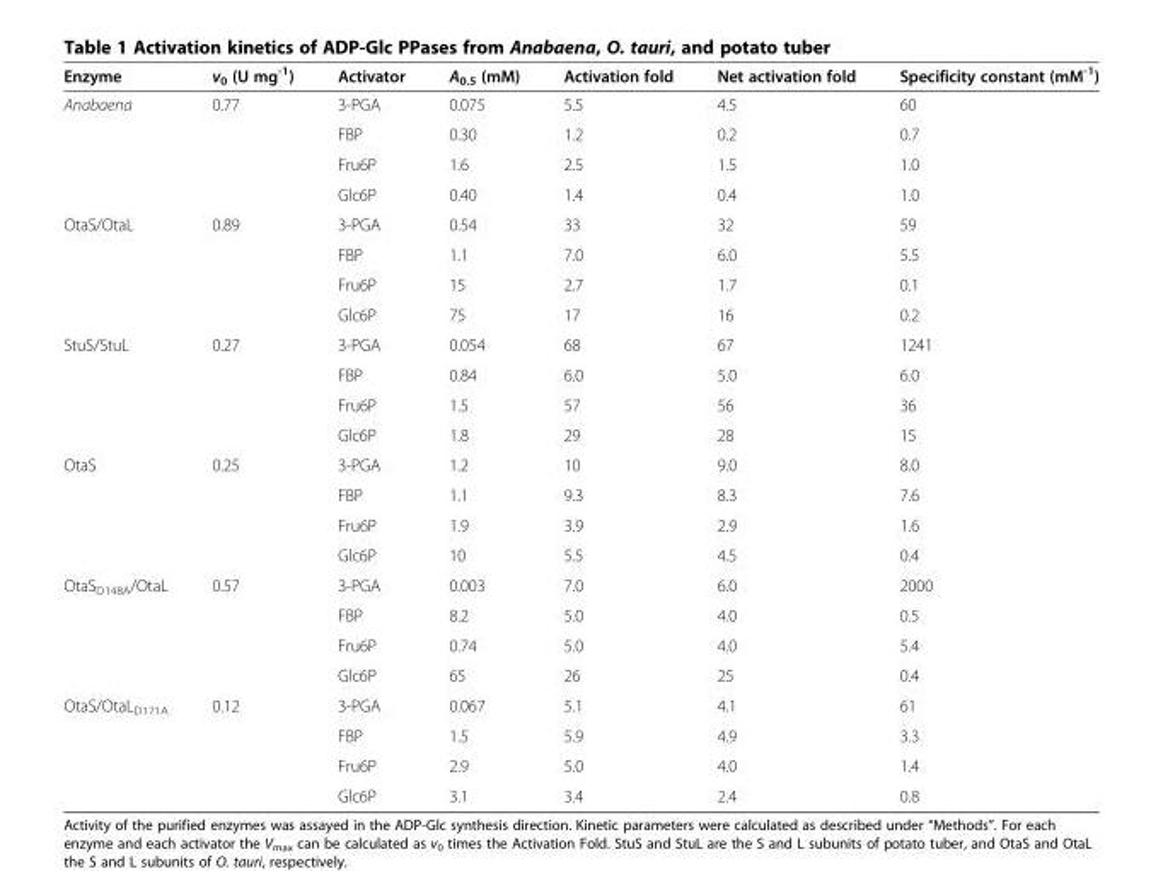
<table><thead><tr><td>Enzyme</td><td>v<sub>0</sub> (U mg<sup>-1</sup>)</td><td>Activator</td><td>A<sub>0.5</sub> (mM)</td><td>Activation fold</td><td>Net activation fold</td><td>Specificity constant (mM<sup>-1</sup>)</td></tr></thead><tbody><tr><td rowspan="4">Anabaena</td><td>0.77</td><td>3-PGA</td><td>0.075</td><td>5.5</td><td>4.5</td><td>60</td></tr><tr><td></td><td>FBP</td><td>0.30</td><td>1.2</td><td>0.2</td><td>0.7</td></tr><tr><td></td><td>Fru6P</td><td>1.6</td><td>2.5</td><td>1.5</td><td>1.0</td></tr><tr><td></td><td>Glc6P</td><td>0.40</td><td>1.4</td><td>0.4</td><td>1.0</td></tr><tr><td rowspan="4">OtaS/OtaL</td><td>0.89</td><td>3-PGA</td><td>0.54</td><td>33</td><td>32</td><td>59</td></tr><tr><td></td><td>FBP</td><td>1.1</td><td>7.0</td><td>6.0</td><td>5.5</td></tr><tr><td></td><td>Fru6P</td><td>15</td><td>2.7</td><td>1.7</td><td>0.1</td></tr><tr><td></td><td>Glc6P</td><td>75</td><td>17</td><td>16</td><td>0.2</td></tr><tr><td rowspan="4">StuS/StuL</td><td>0.27</td><td>3-PGA</td><td>0.054</td><td>68</td><td>67</td><td>1241</td></tr><tr><td></td><td>FBP</td><td>0.84</td><td>6.0</td><td>5.0</td><td>6.0</td></tr><tr><td></td><td>Fru6P</td><td>1.5</td><td>57</td><td>56</td><td>36</td></tr><tr><td></td><td>Glc6P</td><td>1.8</td><td>29</td><td>28</td><td>15</td></tr><tr><td rowspan="4">OtaS</td><td>0.25</td><td>3-PGA</td><td>1.2</td><td>10</td><td>9.0</td><td>8.0</td></tr><tr><td></td><td>FBP</td><td>1.1</td><td>9.3</td><td>8.3</td><td>7.6</td></tr><tr><td></td><td>Fru6P</td><td>1.9</td><td>3.9</td><td>2.9</td><td>1.6</td></tr><tr><td></td><td>Glc6P</td><td>10</td><td>5.5</td><td>4.5</td><td>0.4</td></tr><tr><td rowspan="4">OtaS<sub>D148A</sub>/OtaL</td><td>0.57</td><td>3-PGA</td><td>0.003</td><td>7.0</td><td>6.0</td><td>2000</td></tr><tr><td></td><td>FBP</td><td>8.2</td><td>5.0</td><td>4.0</td><td>0.5</td></tr><tr><td></td><td>Fru6P</td><td>0.74</td><td>5.0</td><td>4.0</td><td>5.4</td></tr><tr><td></td><td>Glc6P</td><td>65</td><td>26</td><td>25</td><td>0.4</td></tr><tr><td rowspan="4">OtaS/OtaL<sub>D171A</sub></td><td>0.12</td><td>3-PGA</td><td>0.067</td><td>5.1</td><td>4.1</td><td>61</td></tr><tr><td></td><td>FBP</td><td>1.5</td><td>5.9</td><td>4.9</td><td>3.3</td></tr><tr><td></td><td>Fru6P</td><td>2.9</td><td>5.0</td><td>4.0</td><td>1.4</td></tr><tr><td></td><td>Glc6P</td><td>3.1</td><td>3.4</td><td>2.4</td><td>0.8</td></tr></tbody></table>